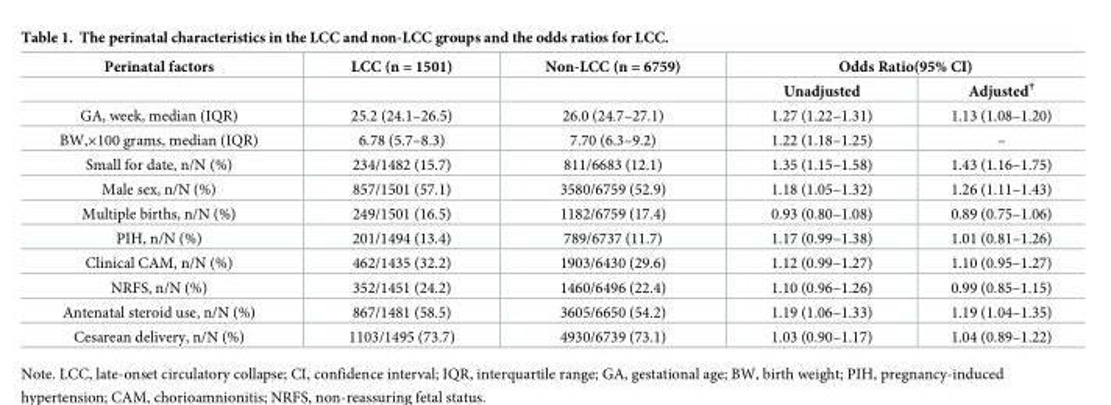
<table><thead><tr><td rowspan="2">Perinatal factors</td><td rowspan="2">LCC (n = 1501)</td><td rowspan="2">Non-LCC (n = 6759)</td><td colspan="2">Odds Ratio(95% CI)</td></tr><tr><td>Unadjusted</td><td>Adjusted<sup>†</sup></td></tr></thead><tbody><tr><td>GA, week, median (IQR)</td><td>25.2 (24.1–26.5)</td><td>26.0 (24.7–27.1)</td><td>1.27 (1.22–1.31)</td><td>1.13 (1.08–1.20)</td></tr><tr><td>BW,×100 grams, median (IQR)</td><td>6.78 (5.7–8.3)</td><td>7.70 (6.3–9.2)</td><td>1.22 (1.18–1.25)</td><td>–</td></tr><tr><td>Small for date, n/N (%)</td><td>234/1482 (15.7)</td><td>811/6683 (12.1)</td><td>1.35 (1.15–1.58)</td><td>1.43 (1.16–1.75)</td></tr><tr><td>Male sex, n/N (%)</td><td>857/1501 (57.1)</td><td>3580/6759 (52.9)</td><td>1.18 (1.05–1.32)</td><td>1.26 (1.11–1.43)</td></tr><tr><td>Multiple births, n/N (%)</td><td>249/1501 (16.5)</td><td>1182/6759 (17.4)</td><td>0.93 (0.80–1.08)</td><td>0.89 (0.75–1.06)</td></tr><tr><td>PIH, n/N (%)</td><td>201/1494 (13.4)</td><td>789/6737 (11.7)</td><td>1.17 (0.99–1.38)</td><td>1.01 (0.81–1.26)</td></tr><tr><td>Clinical CAM, n/N (%)</td><td>462/1435 (32.2)</td><td>1903/6430 (29.6)</td><td>1.12 (0.99–1.27)</td><td>1.10 (0.95–1.27)</td></tr><tr><td>NRFS, n/N (%)</td><td>352/1451 (24.2)</td><td>1460/6496 (22.4)</td><td>1.10 (0.96–1.26)</td><td>0.99 (0.85–1.15)</td></tr><tr><td>Antenatal steroid use, n/N (%)</td><td>867/1481 (58.5)</td><td>3605/6650 (54.2)</td><td>1.19 (1.06–1.33)</td><td>1.19 (1.04–1.35)</td></tr><tr><td>Cesarean delivery, n/N (%)</td><td>1103/1495 (73.7)</td><td>4930/6739 (73.1)</td><td>1.03 (0.90–1.17)</td><td>1.04 (0.89–1.22)</td></tr></tbody></table>